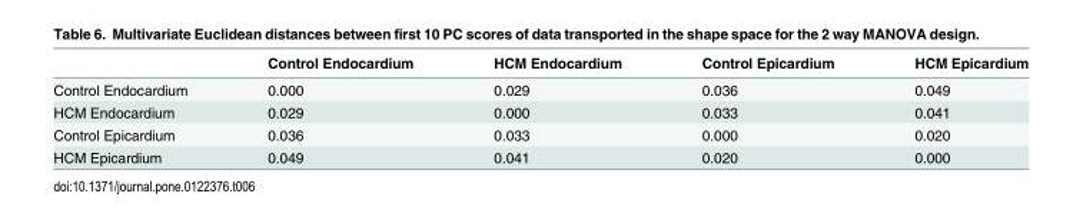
<table><thead><tr><td></td><td>Control Endocardium</td><td>HCM Endocardium</td><td>Control Epicardium</td><td>HCM Epicardium</td></tr></thead><tbody><tr><td>Control Endocardium</td><td>0.000</td><td>0.029</td><td>0.036</td><td>0.049</td></tr><tr><td>HCM Endocardium</td><td>0.029</td><td>0.000</td><td>0.033</td><td>0.041</td></tr><tr><td>Control Epicardium</td><td>0.036</td><td>0.033</td><td>0.000</td><td>0.020</td></tr><tr><td>HCM Epicardium</td><td>0.049</td><td>0.041</td><td>0.020</td><td>0.000</td></tr></tbody></table>